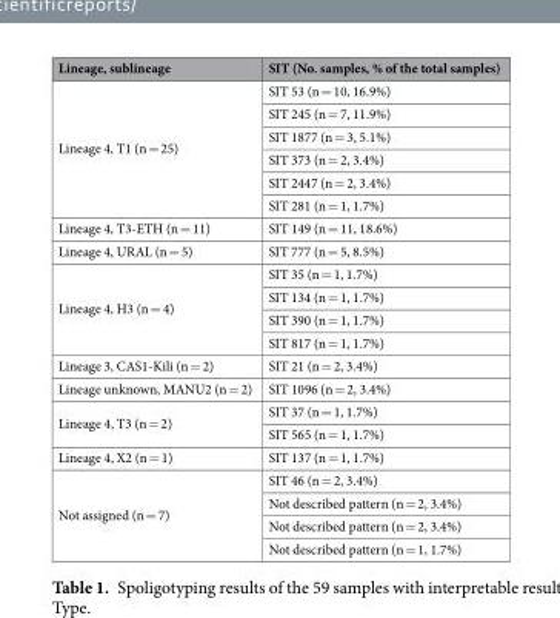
<table><thead><tr><td>Lineage, sublineage</td><td>SIT (No. samples, % of the total samples)</td></tr></thead><tbody><tr><td rowspan="6">Lineage 4, T1 (n = 25)</td><td>SIT 53 (n = 10, 16.9%)</td></tr><tr><td>SIT 245 (n = 7, 11.9%)</td></tr><tr><td>SIT 1877 (n = 3, 5.1%)</td></tr><tr><td>SIT 373 (n = 2, 3.4%)</td></tr><tr><td>SIT 2447 (n = 2, 3.4%)</td></tr><tr><td>SIT 281 (n = 1, 1.7%)</td></tr><tr><td>Lineage 4, T3-ETH (n = 11)</td><td>SIT 149 (n = 11, 18.6%)</td></tr><tr><td>Lineage 4, URAL (n = 5)</td><td>SIT 777 (n = 5, 8.5%)</td></tr><tr><td rowspan="4">Lineage 4, H3 (n = 4)</td><td>SIT 35 (n = 1, 1.7%)</td></tr><tr><td>SIT 134 (n = 1, 1.7%)</td></tr><tr><td>SIT 390 (n = 1, 1.7%)</td></tr><tr><td>SIT 817 (n = 1, 1.7%)</td></tr><tr><td>Lineage 3, CAS1-Kili (n = 2)</td><td>SIT 21 (n = 2, 3.4%)</td></tr><tr><td>Lineage unknown, MANU2 (n = 2)</td><td>SIT 1096 (n = 2, 3.4%)</td></tr><tr><td rowspan="2">Lineage 4, T3 (n = 2)</td><td>SIT 37 (n = 1, 1.7%)</td></tr><tr><td>SIT 565 (n = 1, 1.7%)</td></tr><tr><td>Lineage 4, X2 (n = 1)</td><td>SIT 137 (n = 1, 1.7%)</td></tr><tr><td rowspan="4">Not assigned (n = 7)</td><td>SIT 46 (n = 2, 3.4%)</td></tr><tr><td>Not described pattern (n = 2, 3.4%)</td></tr><tr><td>Not described pattern (n = 2, 3.4%)</td></tr><tr><td>Not described pattern (n = 1, 1.7%)</td></tr></tbody></table>